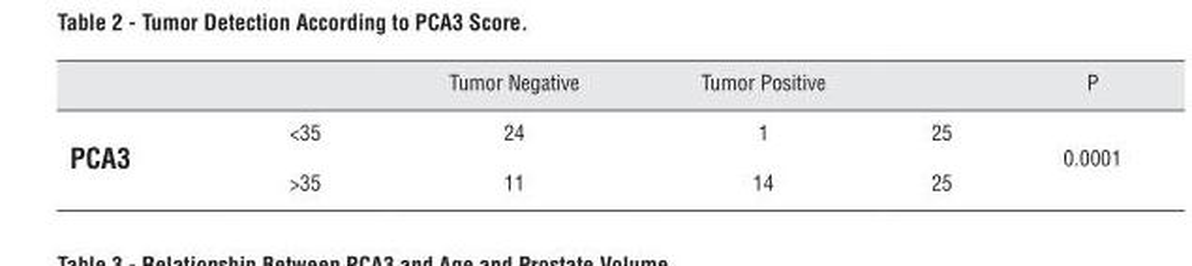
<table><thead><tr><td></td><td></td><td>Tumor Negative</td><td>Tumor Positive</td><td></td><td>P</td></tr></thead><tbody><tr><td rowspan="2">pCA3</td><td>&lt;35</td><td>24</td><td>1</td><td>25</td><td rowspan="2">0.0001</td></tr><tr><td>&gt;35</td><td>11</td><td>14</td><td>25</td></tr></tbody></table>